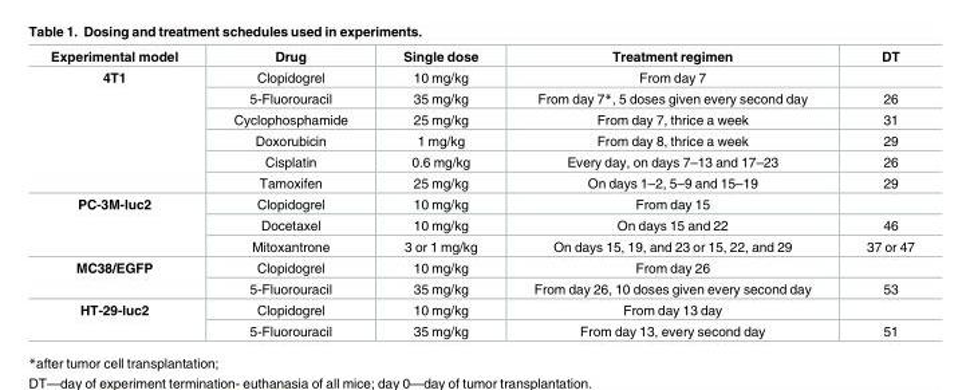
<table><thead><tr><td>Experimental model</td><td>Drug</td><td>Single dose</td><td>Treatment regimen</td><td>DT</td></tr></thead><tbody><tr><td rowspan="6">4T1</td><td>Clopidogrel</td><td>10 mg/kg</td><td>From day 7</td><td></td></tr><tr><td>5-Fluorouracil</td><td>35 mg/kg</td><td>From day 7*, 5 doses given every second day</td><td>26</td></tr><tr><td>Cyclophosphamide</td><td>25 mg/kg</td><td>From day 7, thrice a week</td><td>31</td></tr><tr><td>Doxorubicin</td><td>1 mg/kg</td><td>From day 8, thrice a week</td><td>29</td></tr><tr><td>Cisplatin</td><td>0.6 mg/kg</td><td>Every day, on days 7–13 and 17–23</td><td>26</td></tr><tr><td>Tamoxifen</td><td>25 mg/kg</td><td>On days 1–2, 5–9 and 15–19</td><td>29</td></tr><tr><td rowspan="3">PC-3M-luc2</td><td>Clopidogrel</td><td>10 mg/kg</td><td>From day 15</td><td></td></tr><tr><td>Docetaxel</td><td>10 mg/kg</td><td>On days 15 and 22</td><td>46</td></tr><tr><td>Mitoxantrone</td><td>3 or 1 mg/kg</td><td>On days 15, 19, and 23 or 15, 22, and 29</td><td>37 or 47</td></tr><tr><td rowspan="2">MC38/EGFP</td><td>Clopidogrel</td><td>10 mg/kg</td><td>From day 26</td><td></td></tr><tr><td>5-Fluorouracil</td><td>35 mg/kg</td><td>From day 26, 10 doses given every second day</td><td>53</td></tr><tr><td rowspan="2">HT-29-luc2</td><td>Clopidogrel</td><td>10 mg/kg</td><td>From day 13 day</td><td></td></tr><tr><td>5-Fluorouracil</td><td>35 mg/kg</td><td>From day 13, every second day</td><td>51</td></tr></tbody></table>